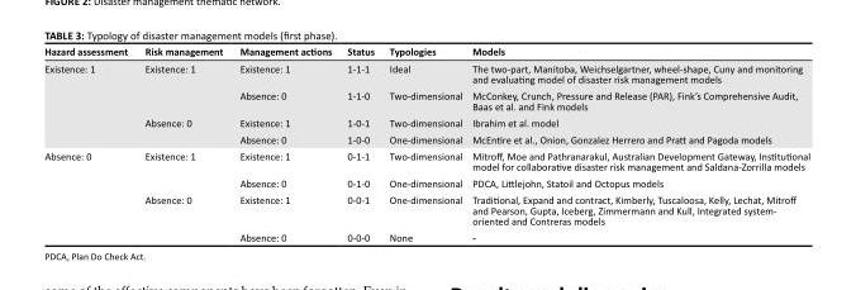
<table><thead><tr><td>Hazard assessment</td><td>Risk management</td><td>Management actions</td><td>Status</td><td>Typologies</td><td>Models</td></tr></thead><tbody><tr><td rowspan="4">Existence: 1</td><td rowspan="2">Existence: 1</td><td>Existence: 1</td><td>1-1-1</td><td>Ideal</td><td>The two-part, Manitoba, Weichselgartner, wheel-shape, Cuny and monitoring and evaluating model of disaster risk management models</td></tr><tr><td>Absence: 0</td><td>1-1-0</td><td>Two-dimensional</td><td>McConkey, Crunch, Pressure and Release (PAR), Fink’s Comprehensive Audit, Baas et al. and Fink models</td></tr><tr><td rowspan="2">Absence: 0</td><td>Existence: 1</td><td>1-0-1</td><td>Two-dimensional</td><td>Ibrahim et al. model</td></tr><tr><td>Absence: 0</td><td>1-0-0</td><td>One-dimensional</td><td>McEntire et al., Onion, Gonzalez Herrero and Pratt and Pagoda models</td></tr><tr><td rowspan="4">Absence: 0</td><td rowspan="2">Existence: 1</td><td>Existence: 1</td><td>0-1-1</td><td>Two-dimensional</td><td>Mitroff, Moe and Pathranarakul, Australian Development Gateway, Institutional model for collaborative disaster risk management and Saldana-Zorrilla models</td></tr><tr><td>Absence: 0</td><td>0-1-0</td><td>One-dimensional</td><td>PDCA, Littlejohn, Statoil and Octopus models</td></tr><tr><td rowspan="2">Absence: 0</td><td>Existence: 1</td><td>0-0-1</td><td>One-dimensional</td><td>Traditional, Expand and contract, Kimberly, Tuscaloosa, Kelly, Lechat, Mitroff and Pearson, Gupta, Iceberg, Zimmermann and Kull, Integrated system- oriented and Contreras models</td></tr><tr><td>Absence: 0</td><td>0-0-0</td><td>None</td><td>-</td></tr></tbody></table>